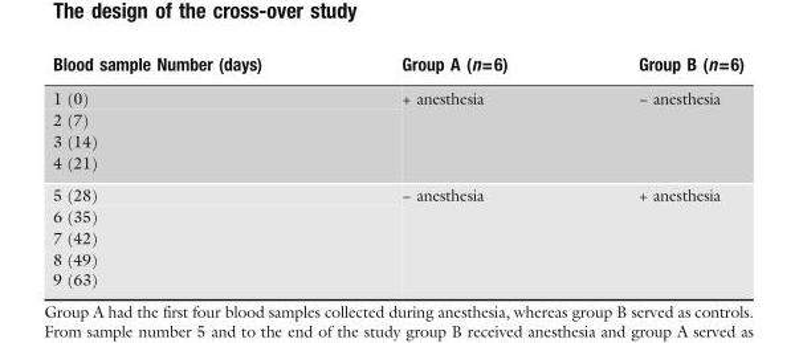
<table><thead><tr><td>Blood sample Number (days)</td><td>Group A (n=6)</td><td>Group B (n=6)</td></tr></thead><tbody><tr><td>1 (0)</td><td>+ anesthesia</td><td>− anesthesia</td></tr><tr><td colspan="3">2 (7)</td></tr><tr><td colspan="3">3 (14)</td></tr><tr><td colspan="3">4 (21)</td></tr><tr><td>5 (28)</td><td>− anesthesia</td><td>+ anesthesia</td></tr><tr><td colspan="3">6 (35)</td></tr><tr><td colspan="3">7 (42)</td></tr><tr><td colspan="3">8 (49)</td></tr><tr><td>9 (63)</td><td></td><td></td></tr></tbody></table>